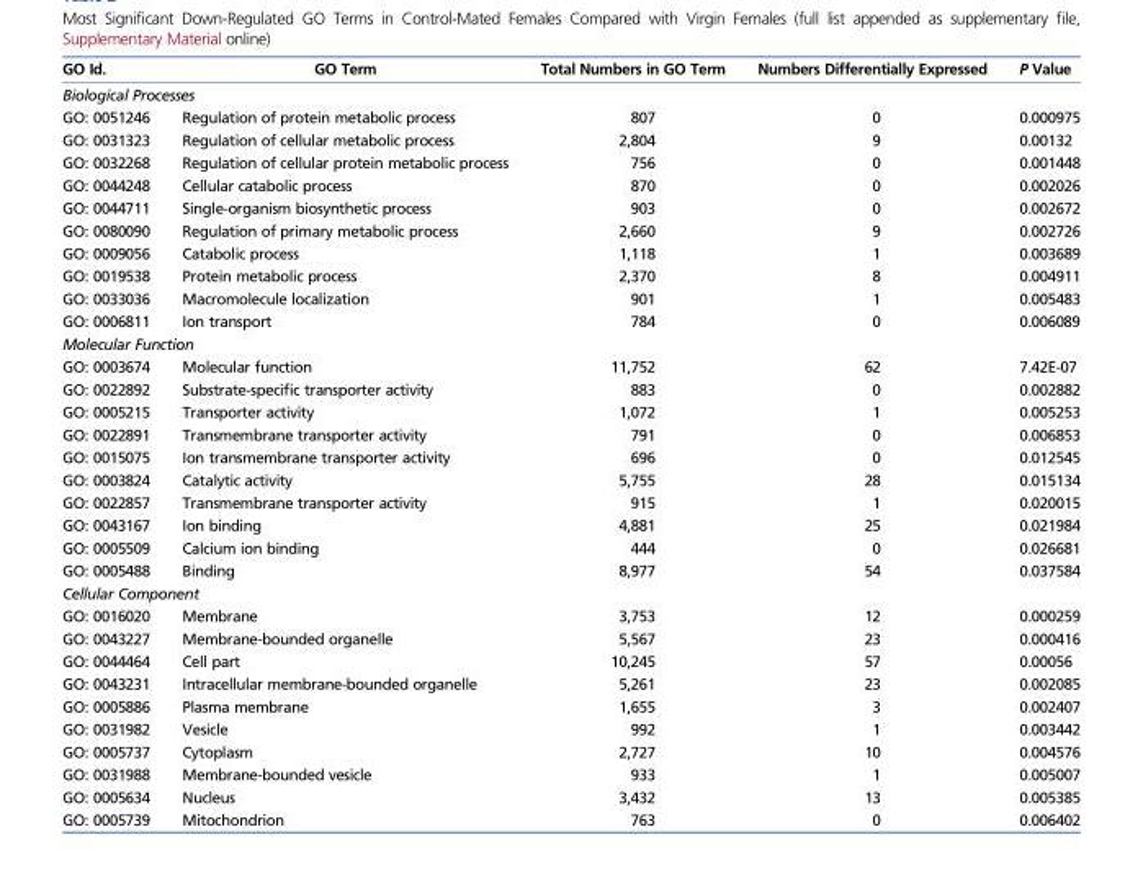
<table><thead><tr><td>GO Id.</td><td>GO Term</td><td>Total Numbers in GO Term</td><td>Numbers Differentially Expressed</td><td>P Value</td></tr></thead><tbody><tr><td colspan="5">Biological Processes</td></tr><tr><td>GO: 0051246</td><td>Regulation of protein metabolic process</td><td>807</td><td>0</td><td>0.000975</td></tr><tr><td>GO: 0031323</td><td>Regulation of cellular metabolic process</td><td>2,804</td><td>9</td><td>0.00132</td></tr><tr><td>GO: 0032268</td><td>Regulation of cellular protein metabolic process</td><td>756</td><td>0</td><td>0.001448</td></tr><tr><td>GO: 0044248</td><td>Cellular catabolic process</td><td>870</td><td>0</td><td>0.002026</td></tr><tr><td>GO: 0044711</td><td>Single-organism biosynthetic process</td><td>903</td><td>0</td><td>0.002672</td></tr><tr><td>GO: 0080090</td><td>Regulation of primary metabolic process</td><td>2,660</td><td>9</td><td>0.002726</td></tr><tr><td>GO: 0009056</td><td>Catabolic process</td><td>1,118</td><td>1</td><td>0.003689</td></tr><tr><td>GO: 0019538</td><td>Protein metabolic process</td><td>2,370</td><td>8</td><td>0.004911</td></tr><tr><td>GO: 0033036</td><td>Macromolecule localization</td><td>901</td><td>1</td><td>0.005483</td></tr><tr><td>GO: 0006811</td><td>Ion transport</td><td>784</td><td>0</td><td>0.006089</td></tr><tr><td colspan="5">Molecular Function</td></tr><tr><td>GO: 0003674</td><td>Molecular function</td><td>11,752</td><td>62</td><td>7.42E-07</td></tr><tr><td>GO: 0022892</td><td>Substrate-specific transporter activity</td><td>883</td><td>0</td><td>0.002882</td></tr><tr><td>GO: 0005215</td><td>Transporter activity</td><td>1,072</td><td>1</td><td>0.005253</td></tr><tr><td>GO: 0022891</td><td>Transmembrane transporter activity</td><td>791</td><td>0</td><td>0.006853</td></tr><tr><td>GO: 0015075</td><td>Ion transmembrane transporter activity</td><td>696</td><td>0</td><td>0.012545</td></tr><tr><td>GO: 0003824</td><td>Catalytic activity</td><td>5,755</td><td>28</td><td>0.015134</td></tr><tr><td>GO: 0022857</td><td>Transmembrane transporter activity</td><td>915</td><td>1</td><td>0.020015</td></tr><tr><td>GO: 0043167</td><td>Ion binding</td><td>4,881</td><td>25</td><td>0.021984</td></tr><tr><td>GO: 0005509</td><td>Calcium ion binding</td><td>444</td><td>0</td><td>0.026681</td></tr><tr><td>GO: 0005488</td><td>Binding</td><td>8,977</td><td>54</td><td>0.037584</td></tr><tr><td colspan="5">Cellular Component</td></tr><tr><td>GO: 0016020</td><td>Membrane</td><td>3,753</td><td>12</td><td>0.000259</td></tr><tr><td>GO: 0043227</td><td>Membrane-bounded organelle</td><td>5,567</td><td>23</td><td>0.000416</td></tr><tr><td>GO: 0044464</td><td>Cell part</td><td>10,245</td><td>57</td><td>0.00056</td></tr><tr><td>GO: 0043231</td><td>Intracellular membrane-bounded organelle</td><td>5,261</td><td>23</td><td>0.002085</td></tr><tr><td>GO: 0005886</td><td>Plasma membrane</td><td>1,655</td><td>3</td><td>0.002407</td></tr><tr><td>GO: 0031982</td><td>Vesicle</td><td>992</td><td>1</td><td>0.003442</td></tr><tr><td>GO: 0005737</td><td>Cytoplasm</td><td>2,727</td><td>10</td><td>0.004576</td></tr><tr><td>GO: 0031988</td><td>Membrane-bounded vesicle</td><td>933</td><td>1</td><td>0.005007</td></tr><tr><td>GO: 0005634</td><td>Nucleus</td><td>3,432</td><td>13</td><td>0.005385</td></tr><tr><td>GO: 0005739</td><td>Mitochondrion</td><td>763</td><td>0</td><td>0.006402</td></tr></tbody></table>